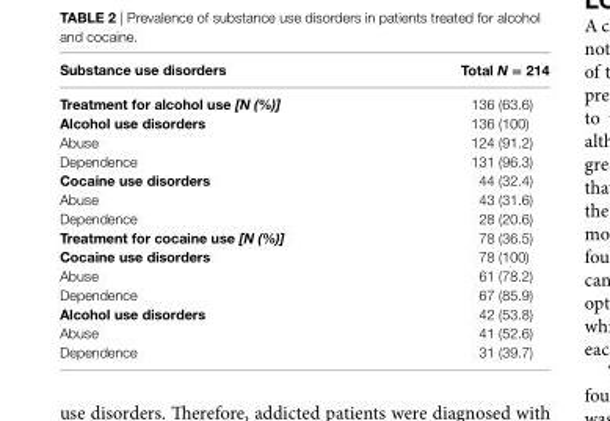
<table><thead><tr><td>substance use disorders</td><td>Total N = 214</td></tr></thead><tbody><tr><td>Treatment for alcohol use [N (%)]</td><td>136 (63.6)</td></tr><tr><td>alcohol use disorders</td><td>136 (100)</td></tr><tr><td>Abuse</td><td>124 (91.2)</td></tr><tr><td>Dependence</td><td>131 (96.3)</td></tr><tr><td>cocaine use disorders</td><td>44 (32.4)</td></tr><tr><td>Abuse</td><td>43 (31.6)</td></tr><tr><td>Dependence</td><td>28 (20.6)</td></tr><tr><td>Treatment for cocaine use [N (%)]</td><td>78 (36.5)</td></tr><tr><td>cocaine use disorders</td><td>78 (100)</td></tr><tr><td>Abuse</td><td>61 (78.2)</td></tr><tr><td>Dependence</td><td>67 (85.9)</td></tr><tr><td>alcohol use disorders</td><td>42 (53.8)</td></tr><tr><td>Abuse</td><td>41 (52.6)</td></tr><tr><td>Dependence</td><td>31 (39.7)</td></tr></tbody></table>